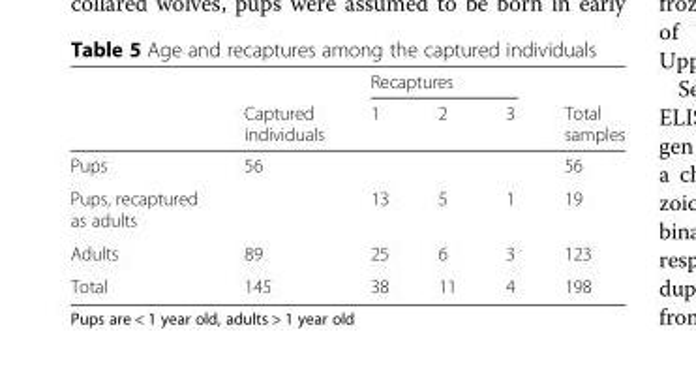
<table><thead><tr><td rowspan="2"></td><td rowspan="2">Captured individuals</td><td colspan="3">Recaptures</td><td rowspan="2">Total samples</td></tr><tr><td>1</td><td>2</td><td>3</td></tr></thead><tbody><tr><td>Pups</td><td>56</td><td></td><td></td><td></td><td>56</td></tr><tr><td>Pups, recaptured as adults</td><td></td><td>13</td><td>5</td><td>1</td><td>19</td></tr><tr><td>Adults</td><td>89</td><td>25</td><td>6</td><td>3</td><td>123</td></tr><tr><td>Total</td><td>145</td><td>38</td><td>11</td><td>4</td><td>198</td></tr></tbody></table>